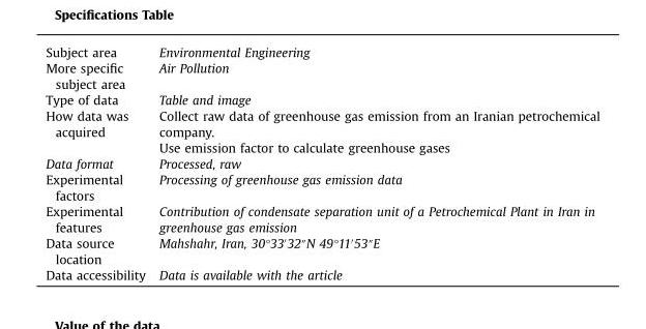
<table><tbody><tr><td>Subject area</td><td>Environmental Engineering</td></tr><tr><td>More specific subject area</td><td>Air Pollution</td></tr><tr><td>Type of data</td><td>Table and image</td></tr><tr><td rowspan="2">How data was acquired</td><td>Collect raw data of greenhouse gas emission from an Iranian petrochemical company.</td></tr><tr><td>Use emission factor to calculate greenhouse gases</td></tr><tr><td>Data format</td><td>Processed, raw</td></tr><tr><td>Experimental factors</td><td>Processing of greenhouse gas emission data</td></tr><tr><td>Experimental features</td><td>Contribution of condensate separation unit of a Petrochemical Plant in Iran in greenhouse gas emission</td></tr><tr><td>Data source location</td><td>Mahshahr, Iran, 30°33′32″N 49°11′53″E</td></tr><tr><td>Data accessibility</td><td>Data is available with the article</td></tr></tbody></table>